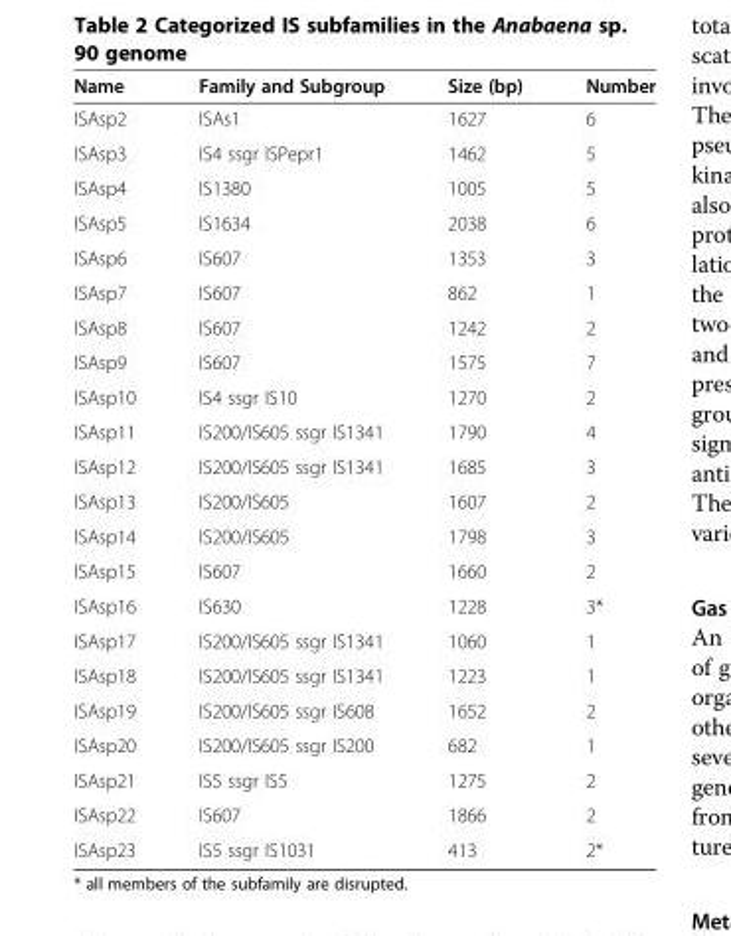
<table><thead><tr><td>Name</td><td>Family and Subgroup</td><td>Size (bp)</td><td>Number</td></tr></thead><tbody><tr><td>ISAsp2</td><td>ISAs1</td><td>1627</td><td>6</td></tr><tr><td>ISAsp3</td><td>IS4 ssgr ISPepr1</td><td>1462</td><td>5</td></tr><tr><td>ISAsp4</td><td>IS1380</td><td>1005</td><td>5</td></tr><tr><td>ISAsp5</td><td>IS1634</td><td>2038</td><td>6</td></tr><tr><td>ISAsp6</td><td>IS607</td><td>1353</td><td>3</td></tr><tr><td>ISAsp7</td><td>IS607</td><td>862</td><td>1</td></tr><tr><td>ISAsp8</td><td>IS607</td><td>1242</td><td>2</td></tr><tr><td>ISAsp9</td><td>IS607</td><td>1575</td><td>7</td></tr><tr><td>ISAsp10</td><td>IS4 ssgr IS10</td><td>1270</td><td>2</td></tr><tr><td>ISAsp11</td><td>IS200/IS605 ssgr IS1341</td><td>1790</td><td>4</td></tr><tr><td>ISAsp12</td><td>IS200/IS605 ssgr IS1341</td><td>1685</td><td>3</td></tr><tr><td>ISAsp13</td><td>IS200/IS605</td><td>1607</td><td>2</td></tr><tr><td>ISAsp14</td><td>IS200/IS605</td><td>1798</td><td>3</td></tr><tr><td>ISAsp15</td><td>IS607</td><td>1660</td><td>2</td></tr><tr><td>ISAsp16</td><td>IS630</td><td>1228</td><td>3*</td></tr><tr><td>ISAsp17</td><td>IS200/IS605 ssgr IS1341</td><td>1060</td><td>1</td></tr><tr><td>ISAsp18</td><td>IS200/IS605 ssgr IS1341</td><td>1223</td><td>1</td></tr><tr><td>ISAsp19</td><td>IS200/IS605 ssgr IS608</td><td>1652</td><td>2</td></tr><tr><td>ISAsp20</td><td>IS200/IS605 ssgr IS200</td><td>682</td><td>1</td></tr><tr><td>ISAsp21</td><td>IS5 ssgr IS5</td><td>1275</td><td>2</td></tr><tr><td>ISAsp22</td><td>IS607</td><td>1866</td><td>2</td></tr><tr><td>ISAsp23</td><td>IS5 ssgr IS1031</td><td>413</td><td>2*</td></tr></tbody></table>